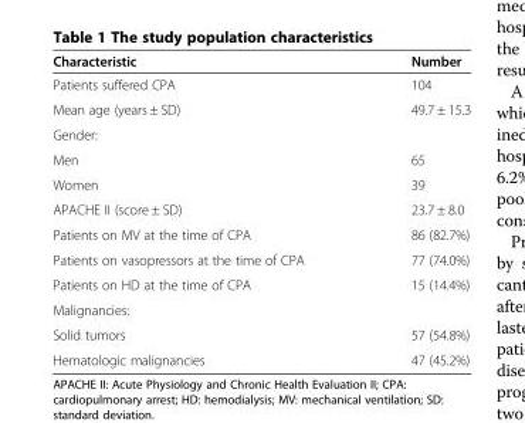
<table><thead><tr><td>Characteristic</td><td>Number</td></tr></thead><tbody><tr><td>Patients suffered CPA</td><td>104</td></tr><tr><td>Mean age (years ± SD)</td><td>49.7 ± 15.3</td></tr><tr><td colspan="2">Gender:</td></tr><tr><td>Men</td><td>65</td></tr><tr><td>Women</td><td>39</td></tr><tr><td>APACHE II (score ± SD)</td><td>23.7 ± 8.0</td></tr><tr><td>Patients on MV at the time of CPA</td><td>86 (82.7%)</td></tr><tr><td>Patients on vasopressors at the time of CPA</td><td>77 (74.0%)</td></tr><tr><td>Patients on HD at the time of CPA</td><td>15 (14.4%)</td></tr><tr><td colspan="2">Malignancies:</td></tr><tr><td>Solid tumors</td><td>57 (54.8%)</td></tr><tr><td>Hematologic malignancies</td><td>47 (45.2%)</td></tr></tbody></table>